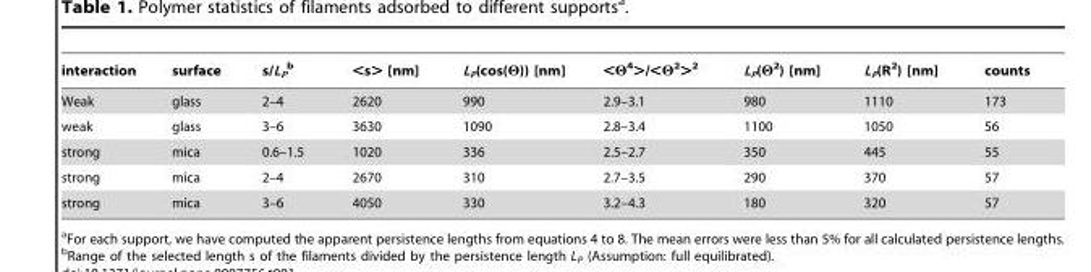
<table><thead><tr><td>interaction</td><td>surface</td><td>s/L<sub>P</sub> b</td><td>&lt;s&gt; [nm]</td><td>L<sub>P</sub>(cos(Θ)) [nm]</td><td>&lt;Θ<sup>4</sup>&gt;/&lt;Θ<sup>2</sup>&gt;<sup>2</sup></td><td>L<sub>P</sub>(Θ<sup>2</sup>) [nm]</td><td>L<sub>P</sub>(R<sup>2</sup>) [nm]</td><td>counts</td></tr></thead><tbody><tr><td>Weak</td><td>glass</td><td>2–4</td><td>2620</td><td>990</td><td>2.9–3.1</td><td>980</td><td>1110</td><td>173</td></tr><tr><td>weak</td><td>glass</td><td>3–6</td><td>3630</td><td>1090</td><td>2.8–3.4</td><td>1100</td><td>1050</td><td>56</td></tr><tr><td>strong</td><td>mica</td><td>0.6–1.5</td><td>1020</td><td>336</td><td>2.5–2.7</td><td>350</td><td>445</td><td>55</td></tr><tr><td>strong</td><td>mica</td><td>2–4</td><td>2670</td><td>310</td><td>2.7–3.5</td><td>290</td><td>370</td><td>57</td></tr><tr><td>strong</td><td>mica</td><td>3–6</td><td>4050</td><td>330</td><td>3.2–4.3</td><td>180</td><td>320</td><td>57</td></tr></tbody></table>